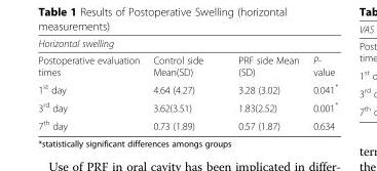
<table><thead><tr><td colspan="4">Horizontal swelling</td></tr><tr><td>Postoperative evaluation times</td><td>Control side Mean(SD)</td><td>PRF side Mean (SD)</td><td>P- value</td></tr></thead><tbody><tr><td>1<sup>st</sup> day</td><td>4.64 (4.27)</td><td>3.28 (3.02)</td><td>0.041*</td></tr><tr><td>3<sup>rd</sup> day</td><td>3.62(3.51)</td><td>1.83(2.52)</td><td>0.001*</td></tr><tr><td>7<sup>th</sup> day</td><td>0.73 (1.89)</td><td>0.57 (1.87)</td><td>0.634</td></tr></tbody></table>